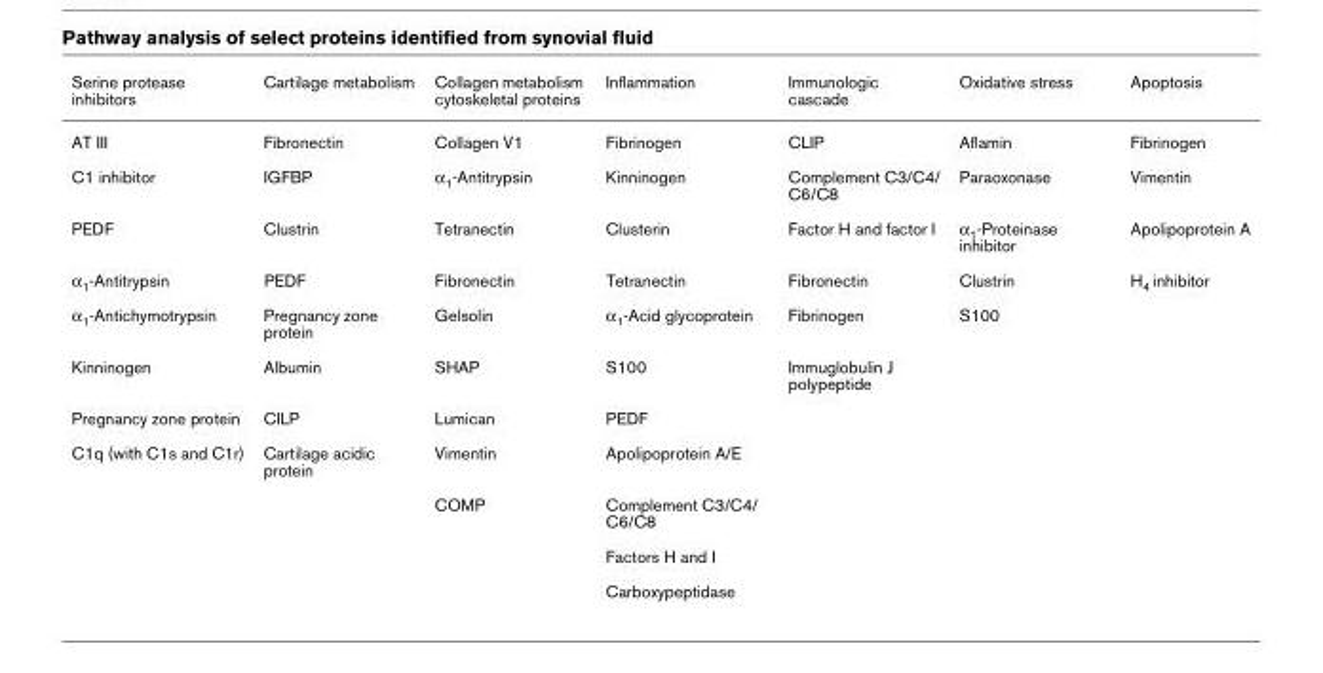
<table><thead><tr><td>Serine protease inhibitors</td><td>Cartilage metabolism</td><td>Collagen metabolism cytoskeletal proteins</td><td>Inflammation</td><td>Immunologic cascade</td><td>Oxidative stress</td><td>Apoptosis</td></tr></thead><tbody><tr><td>AT III</td><td>Fibronectin</td><td>Collagen V1</td><td>Fibrinogen</td><td>CLIP</td><td>Aflamin</td><td>Fibrinogen</td></tr><tr><td>C1 inhibitor</td><td>IGFBP</td><td>α<sub>1</sub>-Antitrypsin</td><td>Kinninogen</td><td>Complement C3/C4/ C6/C8</td><td>Paraoxonase</td><td>Vimentin</td></tr><tr><td>PEDF</td><td>Clustrin</td><td>Tetranectin</td><td>Clusterin</td><td>Factor H and factor I</td><td>α<sub>1</sub>-Proteinase inhibitor</td><td>Apolipoprotein A</td></tr><tr><td>α<sub>1</sub>-Antitrypsin</td><td>PEDF</td><td>Fibronectin</td><td>Tetranectin</td><td>Fibronectin</td><td>Clustrin</td><td>H<sub>4</sub> inhibitor</td></tr><tr><td>α<sub>1</sub>-Antichymotrypsin</td><td>Pregnancy zone protein</td><td>Gelsolin</td><td>α<sub>1</sub>-Acid glycoprotein</td><td>Fibrinogen</td><td>S100</td><td></td></tr><tr><td>Kinninogen</td><td>Albumin</td><td>SHAP</td><td>S100</td><td>Immuglobulin J polypeptide</td><td></td><td></td></tr><tr><td>Pregnancy zone protein</td><td>CILP</td><td>Lumican</td><td>PEDF</td><td></td><td></td><td></td></tr><tr><td rowspan="4">C1q (with C1s and C1r)</td><td>Cartilage acidic protein</td><td>Vimentin</td><td>Apolipoprotein A/E</td><td></td><td></td><td></td></tr><tr><td></td><td>COMP</td><td>Complement C3/C4/ C6/C8</td><td></td><td></td><td></td></tr><tr><td></td><td></td><td>Factors H and I</td><td></td><td></td><td></td></tr><tr><td></td><td></td><td>Carboxypeptidase</td><td></td><td></td><td></td></tr></tbody></table>